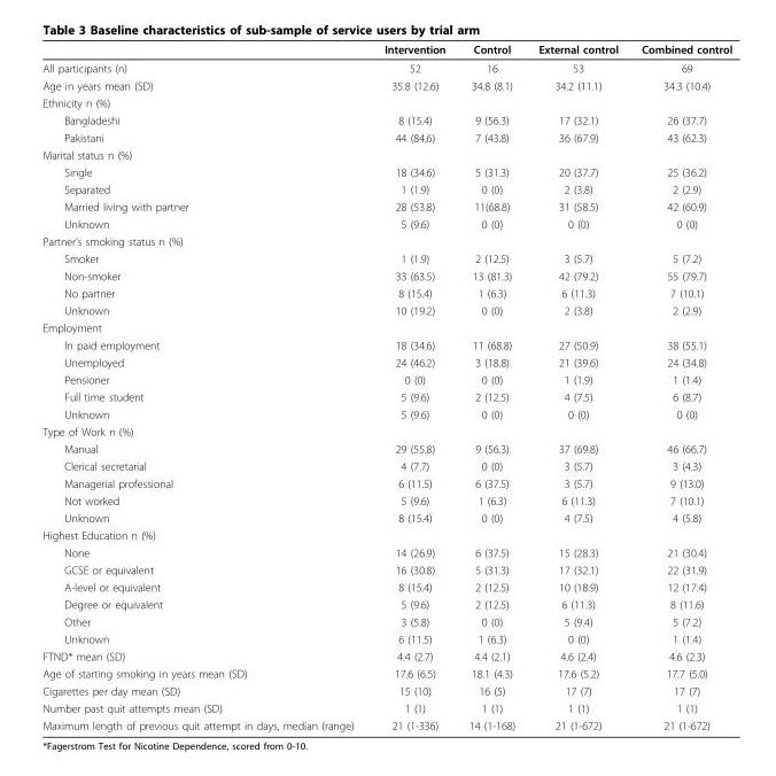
<table><thead><tr><td></td><td>Intervention</td><td>Control</td><td>External control</td><td>Combined control</td></tr></thead><tbody><tr><td>All participants (n)</td><td>52</td><td>16</td><td>53</td><td>69</td></tr><tr><td>Age in years mean (SD)</td><td>35.8 (12.6)</td><td>34.8 (8.1)</td><td>34.2 (11.1)</td><td>34.3 (10.4)</td></tr><tr><td colspan="5">Ethnicity n (%)</td></tr><tr><td>Bangladeshi</td><td>8 (15.4)</td><td>9 (56.3)</td><td>17 (32.1)</td><td>26 (37.7)</td></tr><tr><td>Pakistani</td><td>44 (84.6)</td><td>7 (43.8)</td><td>36 (67.9)</td><td>43 (62.3)</td></tr><tr><td colspan="5">Marital status n (%)</td></tr><tr><td>Single</td><td>18 (34.6)</td><td>5 (31.3)</td><td>20 (37.7)</td><td>25 (36.2)</td></tr><tr><td>Separated</td><td>1 (1.9)</td><td>0 (0)</td><td>2 (3.8)</td><td>2 (2.9)</td></tr><tr><td>Married living with partner</td><td>28 (53.8)</td><td>11(68.8)</td><td>31 (58.5)</td><td>42 (60.9)</td></tr><tr><td>Unknown</td><td>5 (9.6)</td><td>0 (0)</td><td>0 (0)</td><td>0 (0)</td></tr><tr><td colspan="5">Partner’s smoking status n (%)</td></tr><tr><td>Smoker</td><td>1 (1.9)</td><td>2 (12.5)</td><td>3 (5.7)</td><td>5 (7.2)</td></tr><tr><td>Non-smoker</td><td>33 (63.5)</td><td>13 (81.3)</td><td>42 (79.2)</td><td>55 (79.7)</td></tr><tr><td>No partner</td><td>8 (15.4)</td><td>1 (6.3)</td><td>6 (11.3)</td><td>7 (10.1)</td></tr><tr><td>Unknown</td><td>10 (19.2)</td><td>0 (0)</td><td>2 (3.8)</td><td>2 (2.9)</td></tr><tr><td colspan="5">Employment</td></tr><tr><td>In paid employment</td><td>18 (34.6)</td><td>11 (68.8)</td><td>27 (50.9)</td><td>38 (55.1)</td></tr><tr><td>Unemployed</td><td>24 (46.2)</td><td>3 (18.8)</td><td>21 (39.6)</td><td>24 (34.8)</td></tr><tr><td>Pensioner</td><td>0 (0)</td><td>0 (0)</td><td>1 (1.9)</td><td>1 (1.4)</td></tr><tr><td>Full time student</td><td>5 (9.6)</td><td>2 (12.5)</td><td>4 (7.5)</td><td>6 (8.7)</td></tr><tr><td>Unknown</td><td>5 (9.6)</td><td>0 (0)</td><td>0 (0)</td><td>0 (0)</td></tr><tr><td colspan="5">Type of Work n (%)</td></tr><tr><td>Manual</td><td>29 (55.8)</td><td>9 (56.3)</td><td>37 (69.8)</td><td>46 (66.7)</td></tr><tr><td>Clerical secretarial</td><td>4 (7.7)</td><td>0 (0)</td><td>3 (5.7)</td><td>3 (4.3)</td></tr><tr><td>Managerial professional</td><td>6 (11.5)</td><td>6 (37.5)</td><td>3 (5.7)</td><td>9 (13.0)</td></tr><tr><td>Not worked</td><td>5 (9.6)</td><td>1 (6.3)</td><td>6 (11.3)</td><td>7 (10.1)</td></tr><tr><td>Unknown</td><td>8 (15.4)</td><td>0 (0)</td><td>4 (7.5)</td><td>4 (5.8)</td></tr><tr><td colspan="5">Highest Education n (%)</td></tr><tr><td>None</td><td>14 (26.9)</td><td>6 (37.5)</td><td>15 (28.3)</td><td>21 (30.4)</td></tr><tr><td>GCSE or equivalent</td><td>16 (30.8)</td><td>5 (31.3)</td><td>17 (32.1)</td><td>22 (31.9)</td></tr><tr><td>A-level or equivalent</td><td>8 (15.4)</td><td>2 (12.5)</td><td>10 (18.9)</td><td>12 (17.4)</td></tr><tr><td>Degree or equivalent</td><td>5 (9.6)</td><td>2 (12.5)</td><td>6 (11.3)</td><td>8 (11.6)</td></tr><tr><td>Other</td><td>3 (5.8)</td><td>0 (0)</td><td>5 (9.4)</td><td>5 (7.2)</td></tr><tr><td>Unknown</td><td>6 (11.5)</td><td>1 (6.3)</td><td>0 (0)</td><td>1 (1.4)</td></tr><tr><td>FTND* mean (SD)</td><td>4.4 (2.7)</td><td>4.4 (2.1)</td><td>4.6 (2.4)</td><td>4.6 (2.3)</td></tr><tr><td>Age of starting smoking in years mean (SD)</td><td>17.6 (6.5)</td><td>18.1 (4.3)</td><td>17.6 (5.2)</td><td>17.7 (5.0)</td></tr><tr><td>Cigarettes per day mean (SD)</td><td>15 (10)</td><td>16 (5)</td><td>17 (7)</td><td>17 (7)</td></tr><tr><td>Number past quit attempts mean (SD)</td><td>1 (1)</td><td>1 (1)</td><td>1 (1)</td><td>1 (1)</td></tr><tr><td>Maximum length of previous quit attempt in days, median (range)</td><td>21 (1-336)</td><td>14 (1-168)</td><td>21 (1-672)</td><td>21 (1-672)</td></tr></tbody></table>